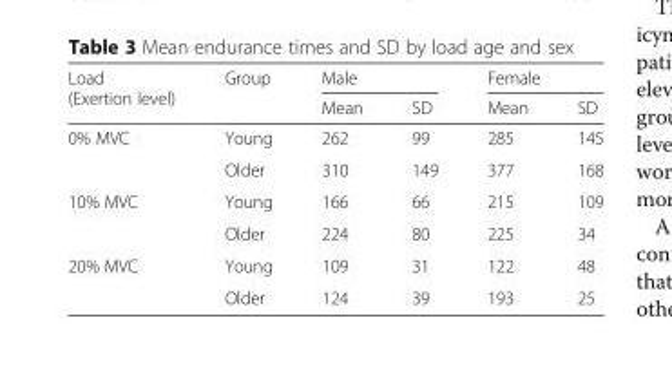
<table><thead><tr><td rowspan="2">Load (Exertion level)</td><td rowspan="2">Group</td><td colspan="2">Male</td><td colspan="2">Female</td></tr><tr><td>Mean</td><td>SD</td><td>Mean</td><td>SD</td></tr></thead><tbody><tr><td rowspan="2">0% MVC</td><td>Young</td><td>262</td><td>99</td><td>285</td><td>145</td></tr><tr><td>Older</td><td>310</td><td>149</td><td>377</td><td>168</td></tr><tr><td rowspan="2">10% MVC</td><td>Young</td><td>166</td><td>66</td><td>215</td><td>109</td></tr><tr><td>Older</td><td>224</td><td>80</td><td>225</td><td>34</td></tr><tr><td rowspan="2">20% MVC</td><td>Young</td><td>109</td><td>31</td><td>122</td><td>48</td></tr><tr><td>Older</td><td>124</td><td>39</td><td>193</td><td>25</td></tr></tbody></table>